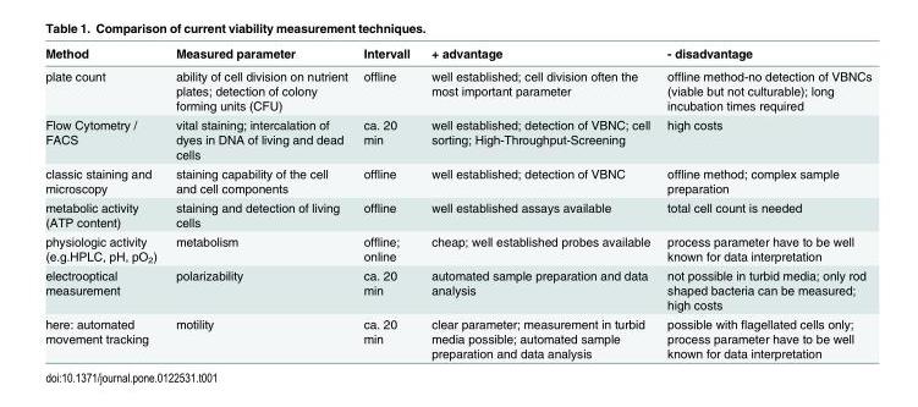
<table><thead><tr><td>Method</td><td>Measured parameter</td><td>Intervall</td><td>+ advantage</td><td>- disadvantage</td></tr></thead><tbody><tr><td>plate count</td><td>ability of cell division on nutrient plates; detection of colony forming units (CFU)</td><td>offline</td><td>well established; cell division often the most important parameter</td><td>offline method-no detection of VBNCs (viable but not culturable); long incubation times required</td></tr><tr><td>Flow Cytometry / FACS</td><td>vital staining; intercalation of dyes in DNA of living and dead cells</td><td>ca. 20 min</td><td>well established; detection of VBNC; cell sorting; High-Throughput-Screening</td><td>high costs</td></tr><tr><td>classic staining and microscopy</td><td>staining capability of the cell and cell components</td><td>offline</td><td>well established; detection of VBNC</td><td>offline method; complex sample preparation</td></tr><tr><td>metabolic activity (ATP content)</td><td>staining and detection of living cells</td><td>offline</td><td>well established assays available</td><td>total cell count is needed</td></tr><tr><td>physiologic activity (e.g.HPLC, pH, pO<sub>2</sub>)</td><td>metabolism</td><td>offline; online</td><td>cheap; well established probes available</td><td>process parameter have to be well known for data interpretation</td></tr><tr><td>electrooptical measurement</td><td>polarizability</td><td>ca. 20 min</td><td>automated sample preparation and data analysis</td><td>not possible in turbid media; only rod shaped bacteria can be measured; high costs</td></tr><tr><td>here: automated movement tracking</td><td>motility</td><td>ca. 20 min</td><td>clear parameter; measurement in turbid media possible; automated sample preparation and data analysis</td><td>possible with flagellated cells only; process parameter have to be well known for data interpretation</td></tr></tbody></table>